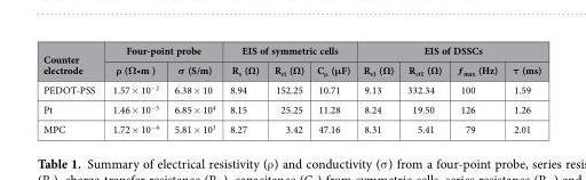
<table><thead><tr><td rowspan="2">Counter electrode</td><td colspan="2">Four-point probe</td><td colspan="3">EIS of symmetric cells</td><td colspan="4">EIS of DSSCs</td></tr><tr><td>ρ (Ω•m )</td><td>σ (S/m)</td><td>R<sub>s</sub> (Ω)</td><td>R<sub>ct</sub> (Ω)</td><td>C<sub>μ</sub> (μF)</td><td>R<sub>s1</sub> (Ω)</td><td>R<sub>ct1</sub> (Ω)</td><td>ƒ<sub>max</sub> (Hz)</td><td>τ (ms)</td></tr></thead><tbody><tr><td>PEDOT-PSS</td><td>1.57 × 10<sup>−2</sup></td><td>6.38 × 10</td><td>8.94</td><td>152.25</td><td>10.71</td><td>9.13</td><td>332.34</td><td>100</td><td>1.59</td></tr><tr><td>Pt</td><td>1.46 × 10<sup>−5</sup></td><td>6.85 × 10<sup>4</sup></td><td>8.15</td><td>25.25</td><td>11.28</td><td>8.24</td><td>19.50</td><td>126</td><td>1.26</td></tr><tr><td>MPC</td><td>1.72 × 10<sup>−4</sup></td><td>5.81 × 10<sup>3</sup></td><td>8.27</td><td>3.42</td><td>47.16</td><td>8.31</td><td>5.41</td><td>79</td><td>2.01</td></tr></tbody></table>